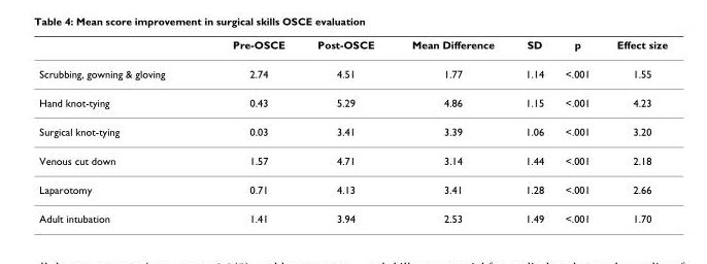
<table><thead><tr><td></td><td>Pre-OSCE</td><td>Post-OSCE</td><td>Mean Difference</td><td>SD</td><td>p</td><td>Effect size</td></tr></thead><tbody><tr><td>Scrubbing, gowning &amp; gloving</td><td>2.74</td><td>4.51</td><td>1.77</td><td>1.14</td><td>&lt;.001</td><td>1.55</td></tr><tr><td>Hand knot-tying</td><td>0.43</td><td>5.29</td><td>4.86</td><td>1.15</td><td>&lt;.001</td><td>4.23</td></tr><tr><td>Surgical knot-tying</td><td>0.03</td><td>3.41</td><td>3.39</td><td>1.06</td><td>&lt;.001</td><td>3.20</td></tr><tr><td>Venous cut down</td><td>1.57</td><td>4.71</td><td>3.14</td><td>1.44</td><td>&lt;.001</td><td>2.18</td></tr><tr><td>Laparotomy</td><td>0.71</td><td>4.13</td><td>3.41</td><td>1.28</td><td>&lt;.001</td><td>2.66</td></tr><tr><td>Adult intubation</td><td>1.41</td><td>3.94</td><td>2.53</td><td>1.49</td><td>&lt;.001</td><td>1.70</td></tr></tbody></table>